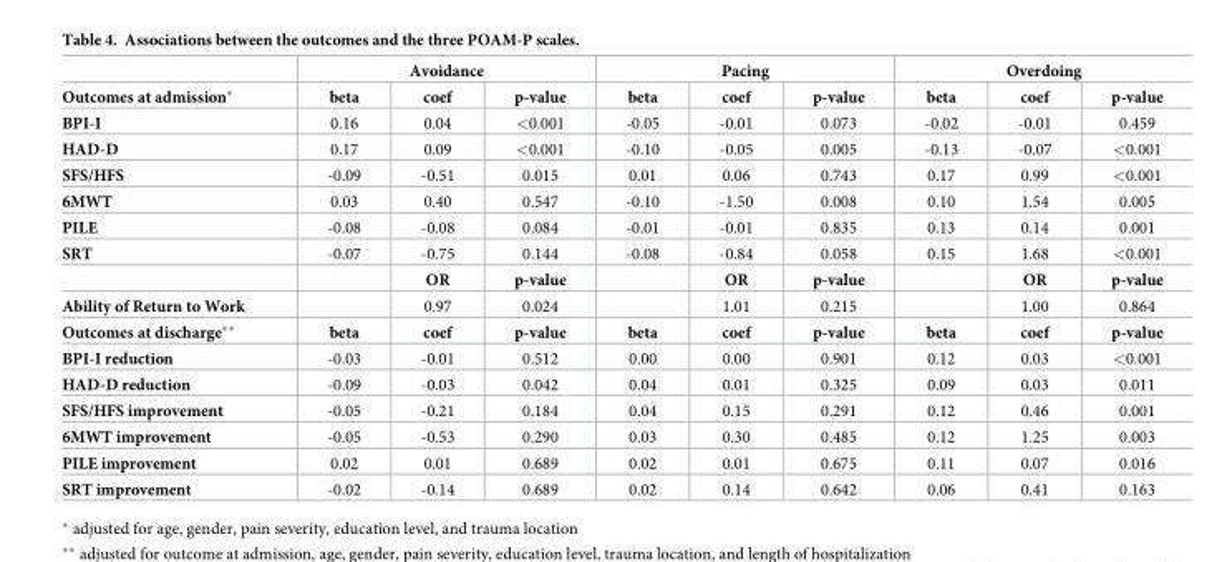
<table><thead><tr><td rowspan="2">Outcomes at admission*</td><td colspan="3">Avoidance</td><td colspan="3">Pacing</td><td colspan="3">Overdoing</td></tr><tr><td>beta</td><td>coef</td><td>p-value</td><td>beta</td><td>coef</td><td>p-value</td><td>beta</td><td>coef</td><td>p-value</td></tr></thead><tbody><tr><td>BPI-I</td><td>0.16</td><td>0.04</td><td>&lt;0.001</td><td>-0.05</td><td>-0.01</td><td>0.073</td><td>-0.02</td><td>-0.01</td><td>0.459</td></tr><tr><td>HAD-D</td><td>0.17</td><td>0.09</td><td>&lt;0.001</td><td>-0.10</td><td>-0.05</td><td>0.005</td><td>-0.13</td><td>-0.07</td><td>&lt;0.001</td></tr><tr><td>SFS/HFS</td><td>-0.09</td><td>-0.51</td><td>0.015</td><td>0.01</td><td>0.06</td><td>0.743</td><td>0.17</td><td>0.99</td><td>&lt;0.001</td></tr><tr><td>6MWT</td><td>0.03</td><td>0.40</td><td>0.547</td><td>-0.10</td><td>-1.50</td><td>0.008</td><td>0.10</td><td>1.54</td><td>0.005</td></tr><tr><td>PILE</td><td>-0.08</td><td>-0.08</td><td>0.084</td><td>-0.01</td><td>-0.01</td><td>0.835</td><td>0.13</td><td>0.14</td><td>0.001</td></tr><tr><td rowspan="2">SRT</td><td>-0.07</td><td>-0.75</td><td>0.144</td><td>-0.08</td><td>-0.84</td><td>0.058</td><td>0.15</td><td>1.68</td><td>&lt;0.001</td></tr><tr><td></td><td>OR</td><td>p-value</td><td></td><td>OR</td><td>p-value</td><td></td><td>OR</td><td>p-value</td></tr><tr><td>Ability of Return to Work</td><td></td><td>0.97</td><td>0.024</td><td></td><td>1.01</td><td>0.215</td><td></td><td>1.00</td><td>0.864</td></tr><tr><td>Outcomes at discharge**</td><td>beta</td><td>coef</td><td>p-value</td><td>beta</td><td>coef</td><td>p-value</td><td>beta</td><td>coef</td><td>p-value</td></tr><tr><td>BPI-I reduction</td><td>-0.03</td><td>-0.01</td><td>0.512</td><td>0.00</td><td>0.00</td><td>0.901</td><td>0.12</td><td>0.03</td><td>&lt;0.001</td></tr><tr><td>HAD-D reduction</td><td>-0.09</td><td>-0.03</td><td>0.042</td><td>0.04</td><td>0.01</td><td>0.325</td><td>0.09</td><td>0.03</td><td>0.011</td></tr><tr><td>SFS/HFS improvement</td><td>-0.05</td><td>-0.21</td><td>0.184</td><td>0.04</td><td>0.15</td><td>0.291</td><td>0.12</td><td>0.46</td><td>0.001</td></tr><tr><td>6MWT improvement</td><td>-0.05</td><td>-0.53</td><td>0.290</td><td>0.03</td><td>0.30</td><td>0.485</td><td>0.12</td><td>1.25</td><td>0.003</td></tr><tr><td>PILE improvement</td><td>0.02</td><td>0.01</td><td>0.689</td><td>0.02</td><td>0.01</td><td>0.675</td><td>0.11</td><td>0.07</td><td>0.016</td></tr><tr><td>SRT improvement</td><td>-0.02</td><td>-0.14</td><td>0.689</td><td>0.02</td><td>0.14</td><td>0.642</td><td>0.06</td><td>0.41</td><td>0.163</td></tr></tbody></table>